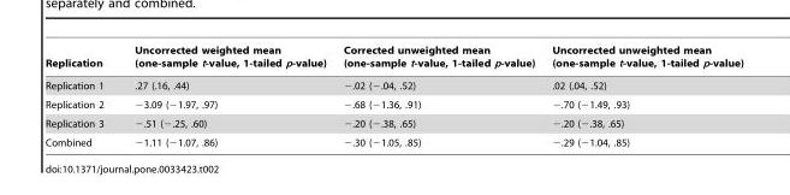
<table><thead><tr><td>Replication</td><td>Uncorrected weighted mean (one-sample t-value, 1-tailed p-value)</td><td>Corrected unweighted mean (one-sample t-value, 1-tailed p-value)</td><td>Uncorrected unweighted mean (one-sample t-value, 1-tailed p-value)</td></tr></thead><tbody><tr><td>Replication 1</td><td>.27 (.16, .44)</td><td>−.02 (−.04, .52)</td><td>.02 (.04, .52)</td></tr><tr><td>Replication 2</td><td>−3.09 (−1.97, .97)</td><td>−.68 (−1.36, .91)</td><td>−.70 (−1.49, .93)</td></tr><tr><td>Replication 3</td><td>−.51 (−.25, .60)</td><td>−.20 (−.38, .65)</td><td>−.20 (−.38, .65)</td></tr><tr><td>Combined</td><td>−1.11 (−1.07, .86)</td><td>−.30 (−1.05, .85)</td><td>−.29 (−1.04, .85)</td></tr></tbody></table>